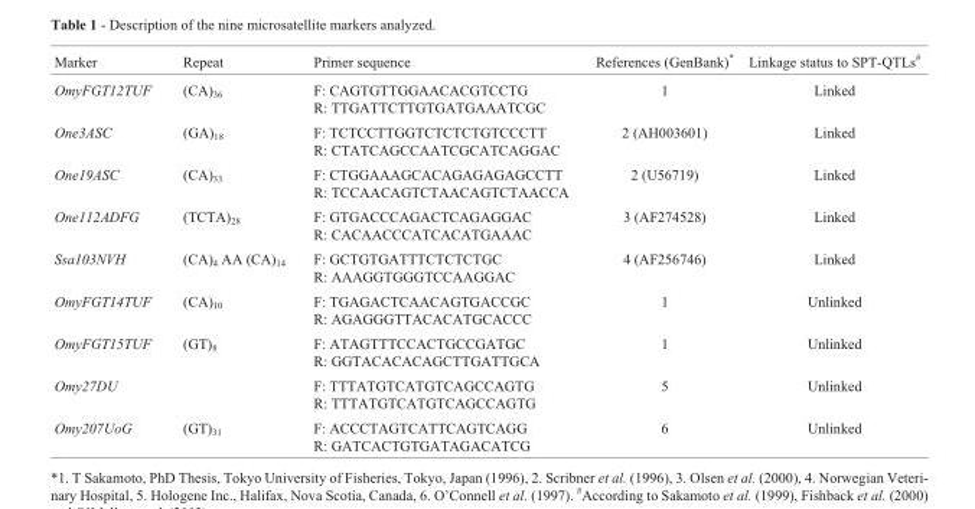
<table><thead><tr><td>Marker</td><td>Repeat</td><td>Primer sequence</td><td>References (GenBank)*</td><td>Linkage status to SPT-QTLs<sup>#</sup></td></tr></thead><tbody><tr><td>OmyFGT12TUF</td><td>(CA)<sub>36</sub></td><td>F: CAGTGTTGGAACACGTCCTG R: TTGATTCTTGTGATGAAATCGC</td><td>1</td><td>Linked</td></tr><tr><td>One3ASC</td><td>(GA)<sub>18</sub></td><td>F: TCTCCTTGGTCTCTCTGTCCCTT R: CTATCAGCCAATCGCATCAGGAC</td><td>2 (AH003601)</td><td>Linked</td></tr><tr><td>One19ASC</td><td>(CA)<sub>33</sub></td><td>F: CTGGAAAGCACAGAGAGAGCCTT R: TCCAACAGTCTAACAGTCTAACCA</td><td>2 (U56719)</td><td>Linked</td></tr><tr><td>One112ADFG</td><td>(TCTA)<sub>28</sub></td><td>F: GTGACCCAGACTCAGAGGAC R: CACAACCCATCACATGAAAC</td><td>3 (AF274528)</td><td>Linked</td></tr><tr><td>Ssa103NVH</td><td>(CA)<sub>4</sub> AA (CA)<sub>14</sub></td><td>F: GCTGTGATTTCTCTCTGC R: AAAGGTGGGTCCAAGGAC</td><td>4 (AF256746)</td><td>Linked</td></tr><tr><td>OmyFGT14TUF</td><td>(CA)<sub>10</sub></td><td>F: TGAGACTCAACAGTGACCGC R: AGAGGGTTACACATGCACCC</td><td>1</td><td>Unlinked</td></tr><tr><td>OmyFGT15TUF</td><td>(GT)<sub>8</sub></td><td>F: ATAGTTTCCACTGCCGATGC R: GGTACACACAGCTTGATTGCA</td><td>1</td><td>Unlinked</td></tr><tr><td>Omy27DU</td><td></td><td>F: TTTATGTCATGTCAGCCAGTG R: TTTATGTCATGTCAGCCAGTG</td><td>5</td><td>Unlinked</td></tr><tr><td>Omy207UoG</td><td>(GT)<sub>31</sub></td><td>F: ACCCTAGTCATTCAGTCAGG R: GATCACTGTGATAGACATCG</td><td>6</td><td>Unlinked</td></tr></tbody></table>